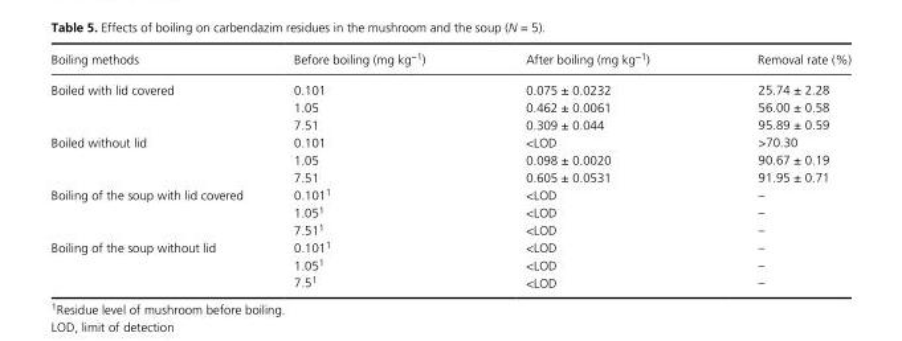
<table><thead><tr><td>Boiling methods</td><td>Before boiling (mg kg<sup>−1</sup>)</td><td>After boiling (mg kg<sup>−1</sup>)</td><td>Removal rate (%)</td></tr></thead><tbody><tr><td rowspan="3">Boiled with lid covered</td><td>0.101</td><td>0.075 ± 0.0232</td><td>25.74 ± 2.28</td></tr><tr><td>1.05</td><td>0.462 ± 0.0061</td><td>56.00 ± 0.58</td></tr><tr><td>7.51</td><td>0.309 ± 0.044</td><td>95.89 ± 0.59</td></tr><tr><td rowspan="3">Boiled without lid</td><td>0.101</td><td>&lt;LOD</td><td>&gt;70.30</td></tr><tr><td>1.05</td><td>0.098 ± 0.0020</td><td>90.67 ± 0.19</td></tr><tr><td>7.51</td><td>0.605 ± 0.0531</td><td>91.95 ± 0.71</td></tr><tr><td rowspan="3">Boiling of the soup with lid covered</td><td>0.1011</td><td>&lt;LOD</td><td>–</td></tr><tr><td>1.051</td><td>&lt;LOD</td><td>–</td></tr><tr><td>7.511</td><td>&lt;LOD</td><td>–</td></tr><tr><td rowspan="3">Boiling of the soup without lid</td><td>0.1011</td><td>&lt;LOD</td><td>–</td></tr><tr><td>1.051</td><td>&lt;LOD</td><td>–</td></tr><tr><td>7.51</td><td>&lt;LOD</td><td>–</td></tr></tbody></table>